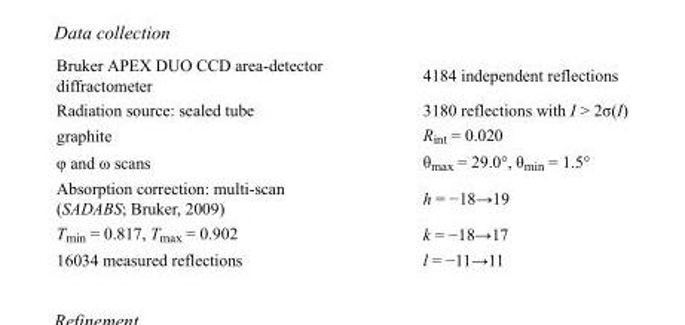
<table><tbody><tr><td>Bruker APEX DUO CCD area-detector diffractometer</td><td>4184 independent reflections</td></tr><tr><td>Radiation source: sealed tube</td><td>3180 reflections with I &gt; 2σ(I)</td></tr><tr><td>graphite</td><td>R<sub>int</sub> = 0.020</td></tr><tr><td>φ and ω scans</td><td>θ<sub>max</sub> = 29.0°, θ<sub>min</sub> = 1.5°</td></tr><tr><td>Absorption correction: multi-scan (SADABS; Bruker, 2009)</td><td>h = −18→19</td></tr><tr><td>T<sub>min</sub> = 0.817, T<sub>max</sub> = 0.902</td><td>k = −18→17</td></tr><tr><td>16034 measured reflections</td><td>l = −11→11</td></tr></tbody></table>